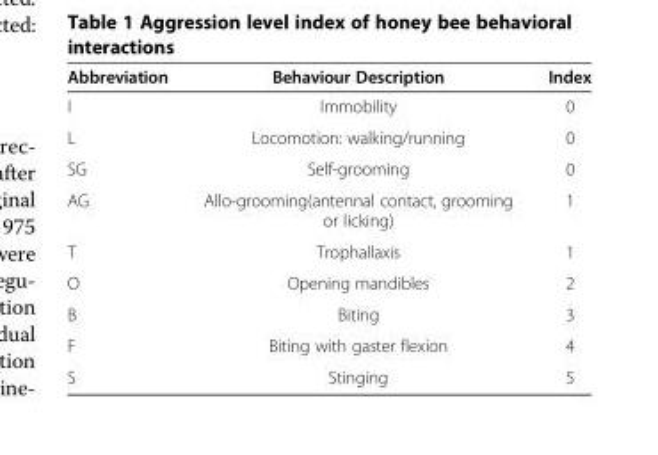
<table><thead><tr><td>Abbreviation</td><td>Behaviour Description</td><td>Index</td></tr></thead><tbody><tr><td>I</td><td>Immobility</td><td>0</td></tr><tr><td>L</td><td>Locomotion: walking/running</td><td>0</td></tr><tr><td>SG</td><td>Self-grooming</td><td>0</td></tr><tr><td>AG</td><td>Allo-grooming(antennal contact, grooming or licking)</td><td>1</td></tr><tr><td>T</td><td>Trophallaxis</td><td>1</td></tr><tr><td>O</td><td>Opening mandibles</td><td>2</td></tr><tr><td>B</td><td>Biting</td><td>3</td></tr><tr><td>F</td><td>Biting with gaster flexion</td><td>4</td></tr><tr><td>S</td><td>Stinging</td><td>5</td></tr></tbody></table>